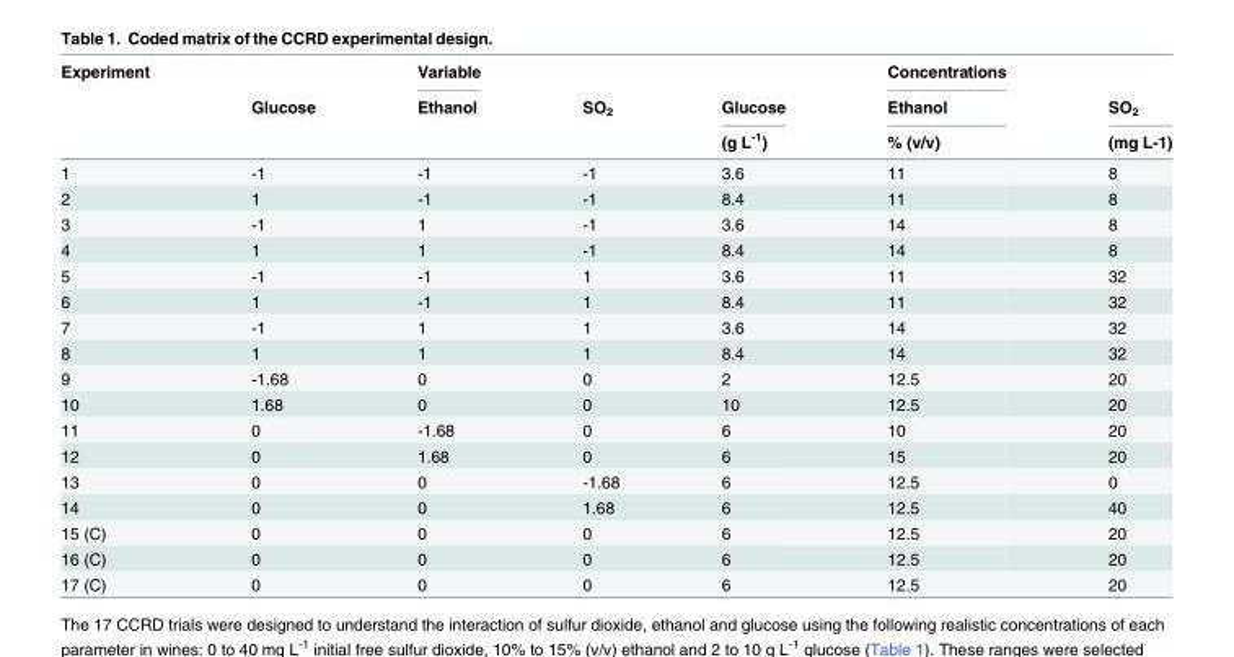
<table><thead><tr><td rowspan="3">Experiment</td><td rowspan="3">Glucose</td><td rowspan="3">Variable Ethanol</td><td rowspan="3">SO<sub>2</sub></td><td rowspan="3">Glucose (g L<sup>-1</sup>)</td><td rowspan="3">Concentrations Ethanol % (v/v)</td><td rowspan="3">SO<sub>2</sub> (mg L-1)</td></tr><tr></tr><tr></tr></thead><tbody><tr><td>1</td><td>-1</td><td>-1</td><td>-1</td><td>3.6</td><td>11</td><td>8</td></tr><tr><td>2</td><td>1</td><td>-1</td><td>-1</td><td>8.4</td><td>11</td><td>8</td></tr><tr><td>3</td><td>-1</td><td>1</td><td>-1</td><td>3.6</td><td>14</td><td>8</td></tr><tr><td>4</td><td>1</td><td>1</td><td>-1</td><td>8.4</td><td>14</td><td>8</td></tr><tr><td>5</td><td>-1</td><td>-1</td><td>1</td><td>3.6</td><td>11</td><td>32</td></tr><tr><td>6</td><td>1</td><td>-1</td><td>1</td><td>8.4</td><td>11</td><td>32</td></tr><tr><td>7</td><td>-1</td><td>1</td><td>1</td><td>3.6</td><td>14</td><td>32</td></tr><tr><td>8</td><td>1</td><td>1</td><td>1</td><td>8.4</td><td>14</td><td>32</td></tr><tr><td>9</td><td>-1.68</td><td>0</td><td>0</td><td>2</td><td>12.5</td><td>20</td></tr><tr><td>10</td><td>1.68</td><td>0</td><td>0</td><td>10</td><td>12.5</td><td>20</td></tr><tr><td>11</td><td>0</td><td>-1.68</td><td>0</td><td>6</td><td>10</td><td>20</td></tr><tr><td>12</td><td>0</td><td>1.68</td><td>0</td><td>6</td><td>15</td><td>20</td></tr><tr><td>13</td><td>0</td><td>0</td><td>-1.68</td><td>6</td><td>12.5</td><td>0</td></tr><tr><td>14</td><td>0</td><td>0</td><td>1.68</td><td>6</td><td>12.5</td><td>40</td></tr><tr><td>15 (C)</td><td>0</td><td>0</td><td>0</td><td>6</td><td>12.5</td><td>20</td></tr><tr><td>16 (C)</td><td>0</td><td>0</td><td>0</td><td>6</td><td>12.5</td><td>20</td></tr><tr><td>17 (C)</td><td>0</td><td>0</td><td>0</td><td>6</td><td>12.5</td><td>20</td></tr></tbody></table>